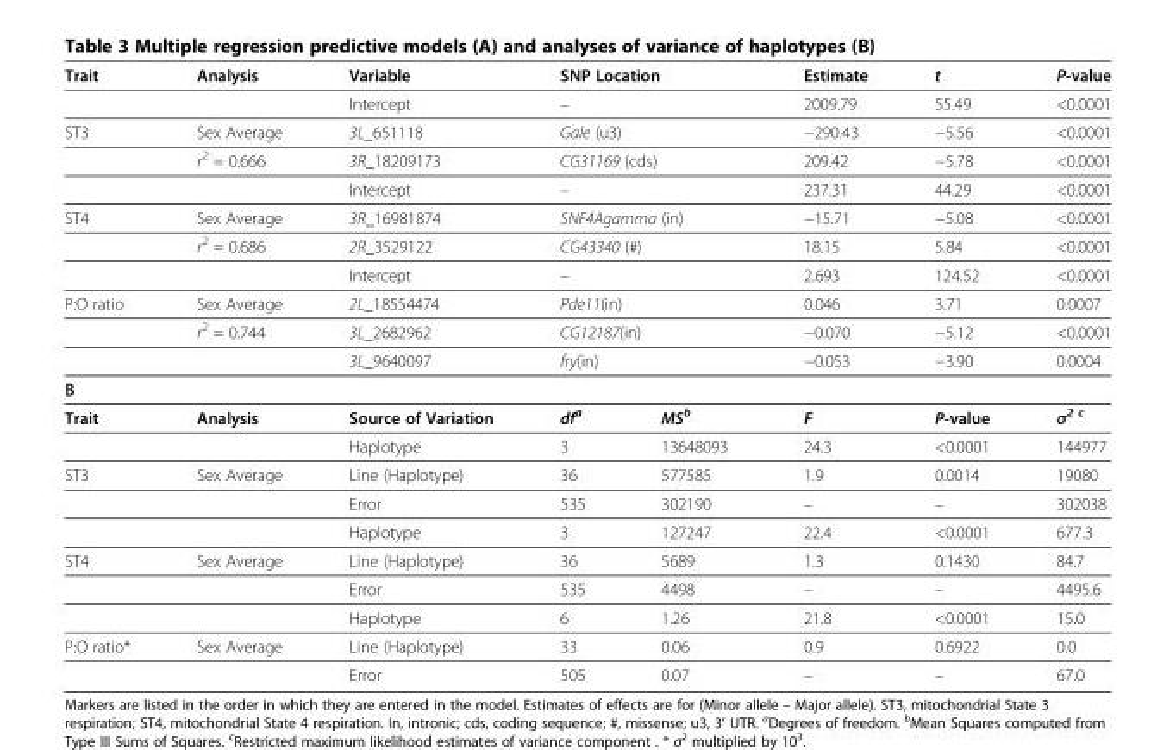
<table><thead><tr><td>Trait</td><td>Analysis</td><td>Variable</td><td colspan="2">SNP Location</td><td>Estimate</td><td>t</td><td>P-value</td></tr></thead><tbody><tr><td></td><td></td><td>Intercept</td><td colspan="2">–</td><td>2009.79</td><td>55.49</td><td>&lt;0.0001</td></tr><tr><td rowspan="3">ST3</td><td>Sex Average</td><td>3L_651118</td><td colspan="2">Gale (u3)</td><td>−290.43</td><td>−5.56</td><td>&lt;0.0001</td></tr><tr><td>r<sup>2</sup> = 0.666</td><td>3R_18209173</td><td colspan="2">CG31169 (cds)</td><td>209.42</td><td>−5.78</td><td>&lt;0.0001</td></tr><tr><td></td><td>Intercept</td><td colspan="2">–</td><td>237.31</td><td>44.29</td><td>&lt;0.0001</td></tr><tr><td rowspan="3">ST4</td><td>Sex Average</td><td>3R_16981874</td><td colspan="2">SNF4Agamma (in)</td><td>−15.71</td><td>−5.08</td><td>&lt;0.0001</td></tr><tr><td>r<sup>2</sup> = 0.686</td><td>2R_3529122</td><td colspan="2">CG43340 (#)</td><td>18.15</td><td>5.84</td><td>&lt;0.0001</td></tr><tr><td></td><td>Intercept</td><td colspan="2">–</td><td>2.693</td><td>124.52</td><td>&lt;0.0001</td></tr><tr><td rowspan="3">P:O ratio</td><td>Sex Average</td><td>2L_18554474</td><td colspan="2">Pde11(in)</td><td>0.046</td><td>3.71</td><td>0.0007</td></tr><tr><td>r<sup>2</sup> = 0.744</td><td>3L_2682962</td><td colspan="2">CG12187(in)</td><td>−0.070</td><td>−5.12</td><td>&lt;0.0001</td></tr><tr><td></td><td>3L_9640097</td><td colspan="2">fry(in)</td><td>−0.053</td><td>−3.90</td><td>0.0004</td></tr><tr><td colspan="8">B</td></tr><tr><td rowspan="2">Trait</td><td>Analysis</td><td>Source of Variation</td><td>df<sup>a</sup></td><td>MS<sup>b</sup></td><td>F</td><td>P-value</td><td>σ<sup>2 c</sup></td></tr><tr><td></td><td>Haplotype</td><td>3</td><td>13648093</td><td>24.3</td><td>&lt;0.0001</td><td>144977</td></tr><tr><td rowspan="3">ST3</td><td>Sex Average</td><td>Line (Haplotype)</td><td>36</td><td>577585</td><td>1.9</td><td>0.0014</td><td>19080</td></tr><tr><td></td><td>Error</td><td>535</td><td>302190</td><td>–</td><td>–</td><td>302038</td></tr><tr><td></td><td>Haplotype</td><td>3</td><td>127247</td><td>22.4</td><td>&lt;0.0001</td><td>677.3</td></tr><tr><td rowspan="3">ST4</td><td>Sex Average</td><td>Line (Haplotype)</td><td>36</td><td>5689</td><td>1.3</td><td>0.1430</td><td>84.7</td></tr><tr><td></td><td>Error</td><td>535</td><td>4498</td><td>–</td><td>–</td><td>4495.6</td></tr><tr><td></td><td>Haplotype</td><td>6</td><td>1.26</td><td>21.8</td><td>&lt;0.0001</td><td>15.0</td></tr><tr><td rowspan="2">P:O ratio*</td><td>Sex Average</td><td>Line (Haplotype)</td><td>33</td><td>0.06</td><td>0.9</td><td>0.6922</td><td>0.0</td></tr><tr><td></td><td>Error</td><td>505</td><td>0.07</td><td>–</td><td>–</td><td>67.0</td></tr></tbody></table>